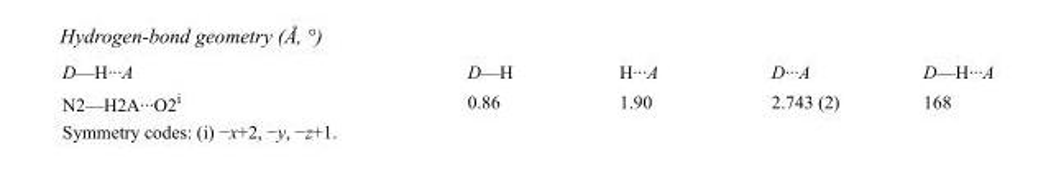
<table><tbody><tr><td>D—H···A</td><td>D—H</td><td>H···A</td><td>D···A</td><td>D—H···A</td></tr><tr><td>N2—H2A···O2<sup>i</sup></td><td>0.86</td><td>1.90</td><td>2.743 (2)</td><td>168</td></tr></tbody></table>